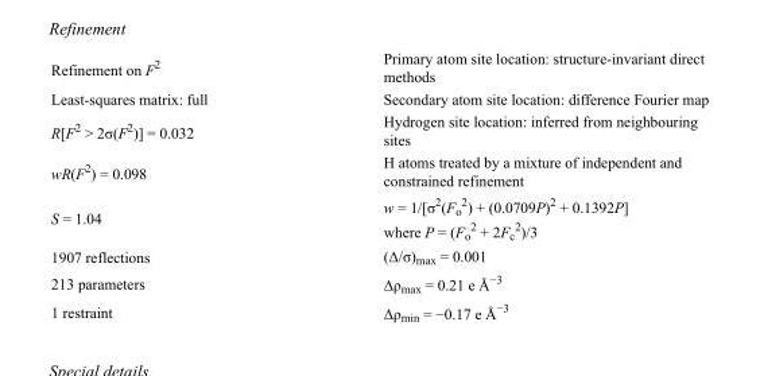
<table><tbody><tr><td>Refinement on F<sup>2</sup></td><td>Primary atom site location: structure-invariant direct methods</td></tr><tr><td>Least-squares matrix: full</td><td>Secondary atom site location: difference Fourier map</td></tr><tr><td>R[F<sup>2</sup> &gt; 2σ(F<sup>2</sup>)] = 0.032</td><td>Hydrogen site location: inferred from neighbouring sites</td></tr><tr><td>wR(F<sup>2</sup>) = 0.098</td><td>H atoms treated by a mixture of independent and constrained refinement</td></tr><tr><td>S = 1.04</td><td>w = 1/[σ<sup>2</sup>(F<sub>o</sub> <sup>2</sup>) + (0.0709P)<sup>2</sup> + 0.1392P] where P = (F<sub>o</sub> <sup>2</sup> + 2F<sub>c</sub> <sup>2</sup>)/3</td></tr><tr><td>1907 reflections</td><td>(Δ/σ)<sub>max</sub> = 0.001</td></tr><tr><td>213 parameters</td><td>Δρ<sub>max</sub> = 0.21 e Å<sup>−3</sup></td></tr><tr><td>1 restraint</td><td>Δρ<sub>min</sub> = −0.17 e Å<sup>−3</sup></td></tr></tbody></table>